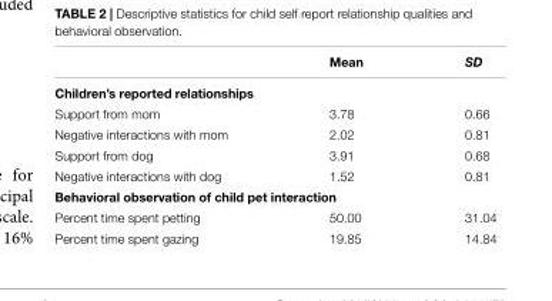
<table><thead><tr><td></td><td>Mean</td><td>SD</td></tr></thead><tbody><tr><td colspan="3">Children’s reported relationships</td></tr><tr><td>Support from mom</td><td>3.78</td><td>0.66</td></tr><tr><td>Negative interactions with mom</td><td>2.02</td><td>0.81</td></tr><tr><td>Support from dog</td><td>3.91</td><td>0.68</td></tr><tr><td>Negative interactions with dog</td><td>1.52</td><td>0.81</td></tr><tr><td colspan="3">Behavioral observation of child pet interaction</td></tr><tr><td>Percent time spent petting</td><td>50.00</td><td>31.04</td></tr><tr><td>Percent time spent gazing</td><td>19.85</td><td>14.84</td></tr></tbody></table>